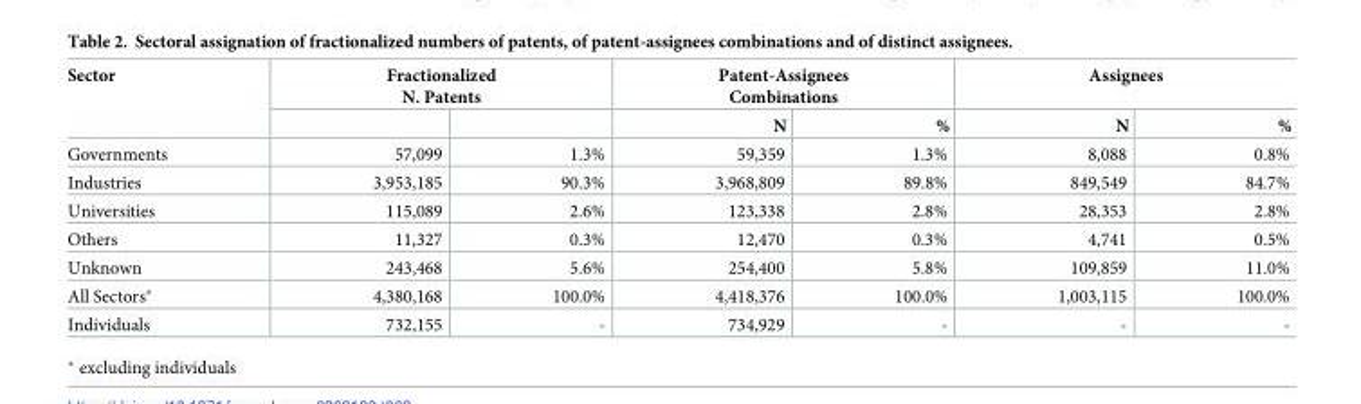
<table><thead><tr><td rowspan="2">Sector</td><td colspan="2">Fractionalized N. Patents</td><td colspan="2">Patent-Assignees Combinations</td><td colspan="2">Assignees</td></tr><tr><td></td><td></td><td>N</td><td>%</td><td>N</td><td>%</td></tr></thead><tbody><tr><td>Governments</td><td>57,099</td><td>1.3%</td><td>59,359</td><td>1.3%</td><td>8,088</td><td>0.8%</td></tr><tr><td>Industries</td><td>3,953,185</td><td>90.3%</td><td>3,968,809</td><td>89.8%</td><td>849,549</td><td>84.7%</td></tr><tr><td>Universities</td><td>115,089</td><td>2.6%</td><td>123,338</td><td>2.8%</td><td>28,353</td><td>2.8%</td></tr><tr><td>Others</td><td>11,327</td><td>0.3%</td><td>12,470</td><td>0.3%</td><td>4,741</td><td>0.5%</td></tr><tr><td>Unknown</td><td>243,468</td><td>5.6%</td><td>254,400</td><td>5.8%</td><td>109,859</td><td>11.0%</td></tr><tr><td>All Sectors*</td><td>4,380,168</td><td>100.0%</td><td>4,418,376</td><td>100.0%</td><td>1,003,115</td><td>100.0%</td></tr><tr><td>Individuals</td><td>732,155</td><td>-</td><td>734,929</td><td>-</td><td>-</td><td>-</td></tr></tbody></table>